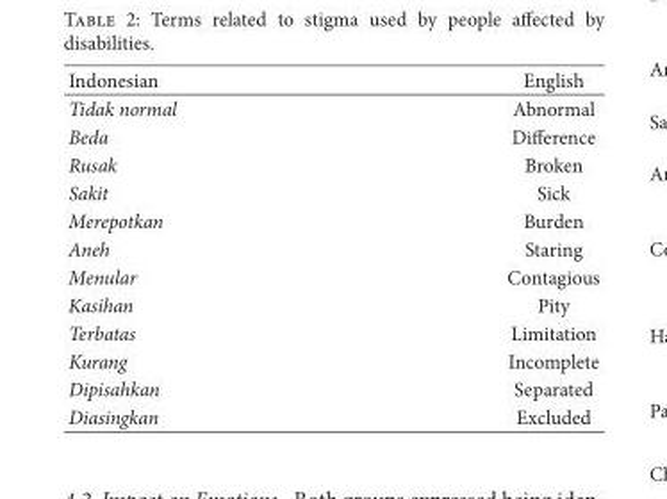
<table><thead><tr><td>Indonesian</td><td>English</td></tr></thead><tbody><tr><td>Tidak normal</td><td>Abnormal</td></tr><tr><td>Beda</td><td>Difference</td></tr><tr><td>Rusak</td><td>Broken</td></tr><tr><td>Sakit</td><td>Sick</td></tr><tr><td>Merepotkan</td><td>Burden</td></tr><tr><td>Aneh</td><td>Staring</td></tr><tr><td>Menular</td><td>Contagious</td></tr><tr><td>Kasihan</td><td>Pity</td></tr><tr><td>Terbatas</td><td>Limitation</td></tr><tr><td>Kurang</td><td>Incomplete</td></tr><tr><td>Dipisahkan</td><td>Separated</td></tr><tr><td>Diasingkan</td><td>Excluded</td></tr></tbody></table>